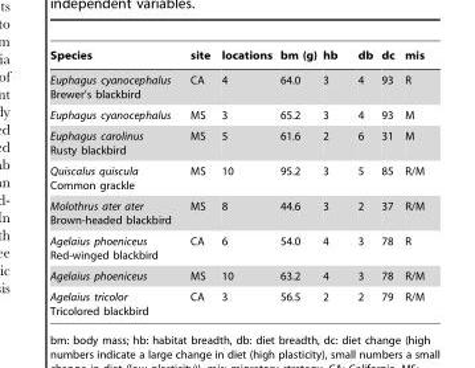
<table><thead><tr><td>Species</td><td>site</td><td>locations</td><td>bm (g)</td><td>hb</td><td>db</td><td>dc</td><td>mis</td></tr></thead><tbody><tr><td>Euphagus cyanocephalus Brewer’s blackbird</td><td>CA</td><td>4</td><td>64.0</td><td>3</td><td>4</td><td>93</td><td>R</td></tr><tr><td>Euphagus cyanocephalus</td><td>MS</td><td>3</td><td>65.2</td><td>3</td><td>4</td><td>93</td><td>M</td></tr><tr><td>Euphagus carolinus Rusty blackbird</td><td>MS</td><td>5</td><td>61.6</td><td>2</td><td>6</td><td>31</td><td>M</td></tr><tr><td>Quiscalus quiscula Common grackle</td><td>MS</td><td>10</td><td>95.2</td><td>3</td><td>5</td><td>85</td><td>R/M</td></tr><tr><td>Molothrus ater ater Brown-headed blackbird</td><td>MS</td><td>8</td><td>44.6</td><td>3</td><td>2</td><td>37</td><td>R/M</td></tr><tr><td>Agelaius phoeniceus Red-winged blackbird</td><td>CA</td><td>6</td><td>54.0</td><td>4</td><td>3</td><td>78</td><td>R</td></tr><tr><td>Agelaius phoeniceus</td><td>MS</td><td>10</td><td>63.2</td><td>4</td><td>3</td><td>78</td><td>R/M</td></tr><tr><td>Agelaius tricolor Tricolored blackbird</td><td>CA</td><td>3</td><td>56.5</td><td>2</td><td>2</td><td>79</td><td>R/M</td></tr></tbody></table>